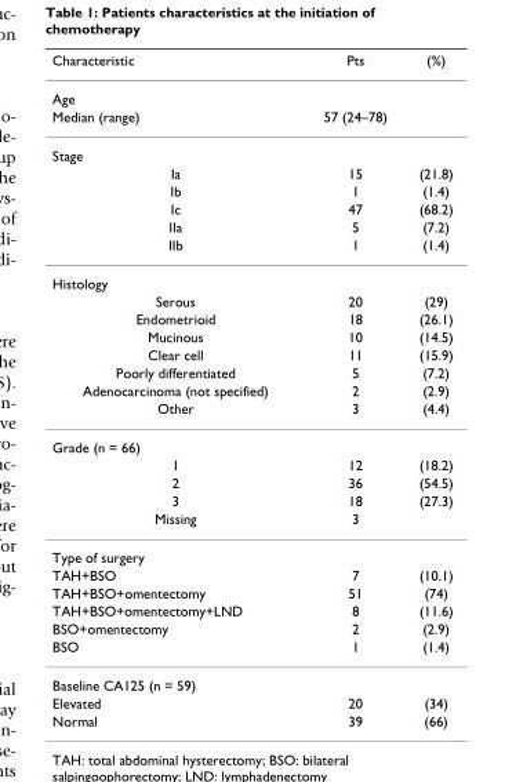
<table><thead><tr><td>Characteristic</td><td>Pts</td><td>(%)</td></tr></thead><tbody><tr><td colspan="3">Age</td></tr><tr><td>Median (range)</td><td>57 (24–78)</td><td></td></tr><tr><td colspan="3">Stage</td></tr><tr><td>Ia</td><td>15</td><td>(21.8)</td></tr><tr><td>Ib</td><td>1</td><td>(1.4)</td></tr><tr><td>Ic</td><td>47</td><td>(68.2)</td></tr><tr><td>IIa</td><td>5</td><td>(7.2)</td></tr><tr><td>IIb</td><td>1</td><td>(1.4)</td></tr><tr><td colspan="3">Histology</td></tr><tr><td>Serous</td><td>20</td><td>(29)</td></tr><tr><td>Endometrioid</td><td>18</td><td>(26.1)</td></tr><tr><td>Mucinous</td><td>10</td><td>(14.5)</td></tr><tr><td>Clear cell</td><td>11</td><td>(15.9)</td></tr><tr><td>Poorly differentiated</td><td>5</td><td>(7.2)</td></tr><tr><td>Adenocarcinoma (not specified)</td><td>2</td><td>(2.9)</td></tr><tr><td>Other</td><td>3</td><td>(4.4)</td></tr><tr><td colspan="3">Grade (n = 66)</td></tr><tr><td>1</td><td>12</td><td>(18.2)</td></tr><tr><td>2</td><td>36</td><td>(54.5)</td></tr><tr><td>3</td><td>18</td><td>(27.3)</td></tr><tr><td>Missing</td><td>3</td><td></td></tr><tr><td colspan="3">Type of surgery</td></tr><tr><td>TAH+BSO</td><td>7</td><td>(10.1)</td></tr><tr><td>TAH+BSO+omentectomy</td><td>51</td><td>(74)</td></tr><tr><td>TAH+BSO+omentectomy+LND</td><td>8</td><td>(11.6)</td></tr><tr><td>BSO+omentectomy</td><td>2</td><td>(2.9)</td></tr><tr><td>BSO</td><td>1</td><td>(1.4)</td></tr><tr><td colspan="3">Baseline CA125 (n = 59)</td></tr><tr><td>Elevated</td><td>20</td><td>(34)</td></tr><tr><td>Normal</td><td>39</td><td>(66)</td></tr></tbody></table>